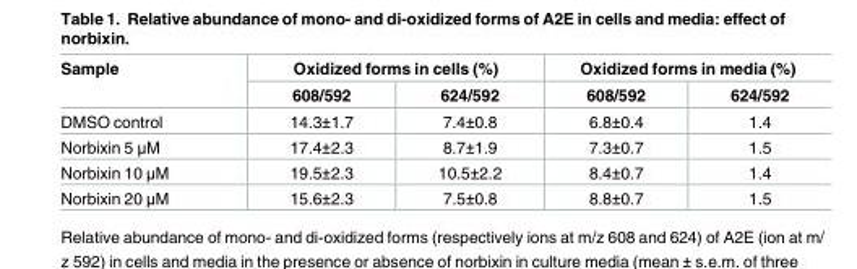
<table><thead><tr><td rowspan="2">Sample</td><td colspan="2">Oxidized forms in cells (%)</td><td colspan="2">Oxidized forms in media (%)</td></tr><tr><td>608/592</td><td>624/592</td><td>608/592</td><td>624/592</td></tr></thead><tbody><tr><td>DMSO control</td><td>14.3±1.7</td><td>7.4±0.8</td><td>6.8±0.4</td><td>1.4</td></tr><tr><td>Norbixin 5 μM</td><td>17.4±2.3</td><td>8.7±1.9</td><td>7.3±0.7</td><td>1.5</td></tr><tr><td>Norbixin 10 μM</td><td>19.5±2.3</td><td>10.5±2.2</td><td>8.4±0.7</td><td>1.4</td></tr><tr><td>Norbixin 20 μM</td><td>15.6±2.3</td><td>7.5±0.8</td><td>8.8±0.7</td><td>1.5</td></tr></tbody></table>